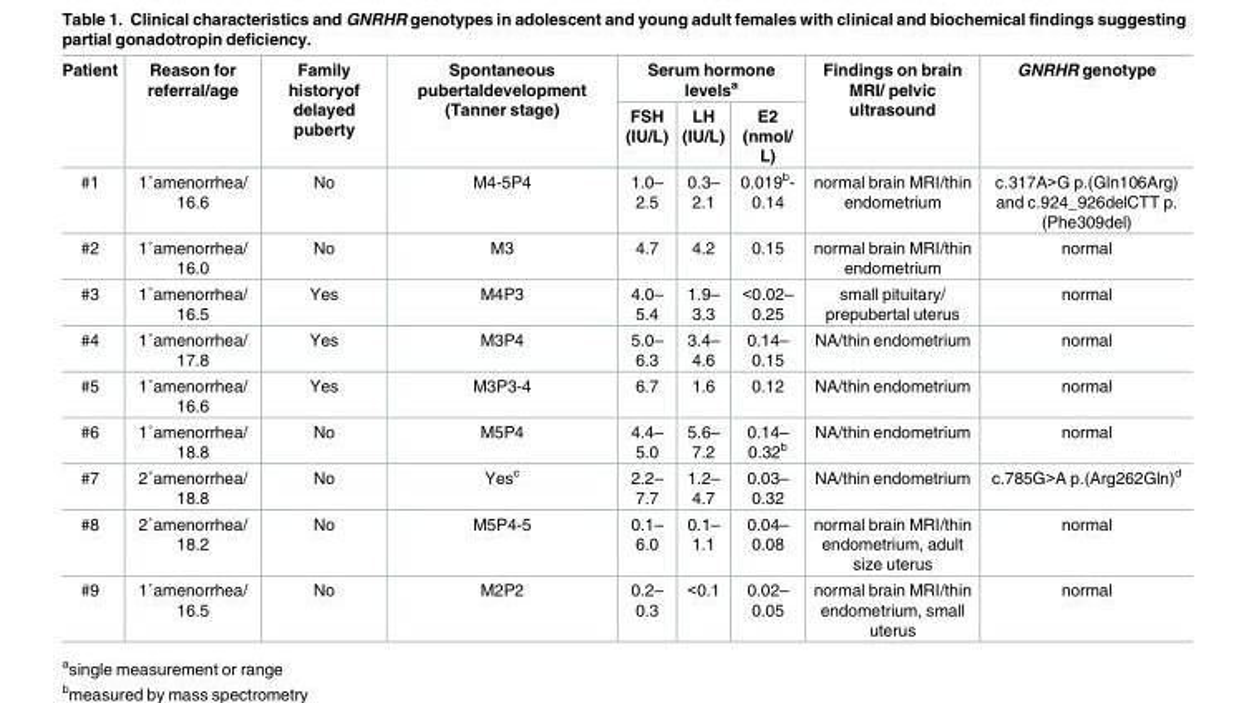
<table><thead><tr><td rowspan="2">Patient</td><td rowspan="2">Reason for referral/age</td><td rowspan="2">Family historyof delayed puberty</td><td rowspan="2">Spontaneous pubertaldevelopment (Tanner stage)</td><td colspan="3">Serum hormone levels<sup>a</sup></td><td rowspan="2">Findings on brain MRI/ pelvic ultrasound</td><td rowspan="2">GNRHR genotype</td></tr><tr><td>FSH (IU/L)</td><td>LH (IU/L)</td><td>E2 (nmol/ L)</td></tr></thead><tbody><tr><td>#1</td><td>1˚amenorrhea/ 16.6</td><td>No</td><td>M4-5P4</td><td>1.0– 2.5</td><td>0.3– 2.1</td><td>0.019<sup>b</sup>- 0.14</td><td>normal brain MRI/thin endometrium</td><td>c.317A&gt;G p.(Gln106Arg) and c.924_926delCTT p. (Phe309del)</td></tr><tr><td>#2</td><td>1˚amenorrhea/ 16.0</td><td>No</td><td>M3</td><td>4.7</td><td>4.2</td><td>0.15</td><td>normal brain MRI/thin endometrium</td><td>normal</td></tr><tr><td>#3</td><td>1˚amenorrhea/ 16.5</td><td>Yes</td><td>M4P3</td><td>4.0– 5.4</td><td>1.9– 3.3</td><td>&lt;0.02– 0.25</td><td>small pituitary/ prepubertal uterus</td><td>normal</td></tr><tr><td>#4</td><td>1˚amenorrhea/ 17.8</td><td>Yes</td><td>M3P4</td><td>5.0– 6.3</td><td>3.4– 4.6</td><td>0.14– 0.15</td><td>NA/thin endometrium</td><td>normal</td></tr><tr><td>#5</td><td>1˚amenorrhea/ 16.6</td><td>Yes</td><td>M3P3-4</td><td>6.7</td><td>1.6</td><td>0.12</td><td>NA/thin endometrium</td><td>normal</td></tr><tr><td>#6</td><td>1˚amenorrhea/ 18.8</td><td>No</td><td>M5P4</td><td>4.4– 5.0</td><td>5.6– 7.2</td><td>0.14– 0.32<sup>b</sup></td><td>NA/thin endometrium</td><td>normal</td></tr><tr><td>#7</td><td>2˚amenorrhea/ 18.8</td><td>No</td><td>Yes<sup>c</sup></td><td>2.2– 7.7</td><td>1.2– 4.7</td><td>0.03– 0.32</td><td>NA/thin endometrium</td><td>c.785G&gt;A p.(Arg262Gln)<sup>d</sup></td></tr><tr><td>#8</td><td>2˚amenorrhea/ 18.2</td><td>No</td><td>M5P4-5</td><td>0.1– 6.0</td><td>0.1– 1.1</td><td>0.04– 0.08</td><td>normal brain MRI/thin endometrium, adult size uterus</td><td>normal</td></tr><tr><td>#9</td><td>1˚amenorrhea/ 16.5</td><td>No</td><td>M2P2</td><td>0.2– 0.3</td><td>&lt;0.1</td><td>0.02– 0.05</td><td>normal brain MRI/thin endometrium, small uterus</td><td>normal</td></tr></tbody></table>